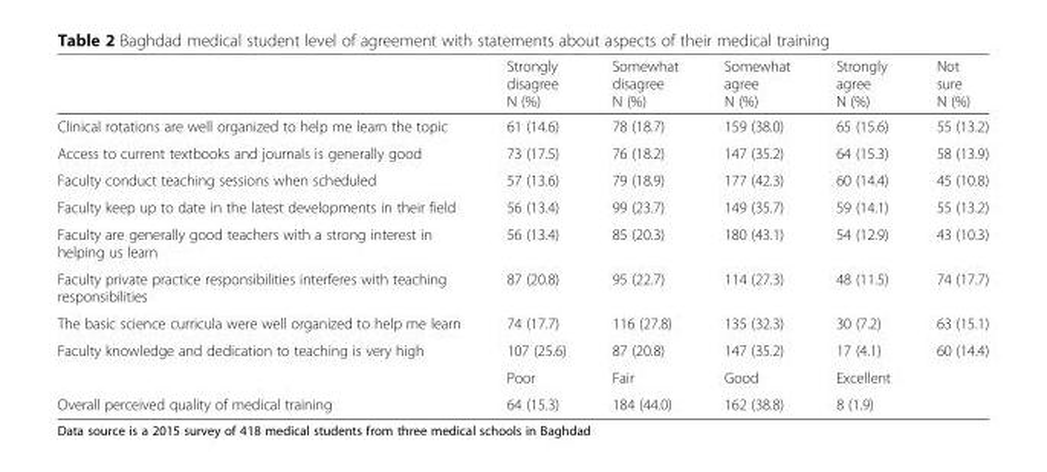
<table><thead><tr><td></td><td>Strongly disagree N (%)</td><td>Somewhat disagree N (%)</td><td>Somewhat agree N (%)</td><td>Strongly agree N (%)</td><td>Not sure N (%)</td></tr></thead><tbody><tr><td>Clinical rotations are well organized to help me learn the topic</td><td>61 (14.6)</td><td>78 (18.7)</td><td>159 (38.0)</td><td>65 (15.6)</td><td>55 (13.2)</td></tr><tr><td>Access to current textbooks and journals is generally good</td><td>73 (17.5)</td><td>76 (18.2)</td><td>147 (35.2)</td><td>64 (15.3)</td><td>58 (13.9)</td></tr><tr><td>Faculty conduct teaching sessions when scheduled</td><td>57 (13.6)</td><td>79 (18.9)</td><td>177 (42.3)</td><td>60 (14.4)</td><td>45 (10.8)</td></tr><tr><td>Faculty keep up to date in the latest developments in their field</td><td>56 (13.4)</td><td>99 (23.7)</td><td>149 (35.7)</td><td>59 (14.1)</td><td>55 (13.2)</td></tr><tr><td>Faculty are generally good teachers with a strong interest in helping us learn</td><td>56 (13.4)</td><td>85 (20.3)</td><td>180 (43.1)</td><td>54 (12.9)</td><td>43 (10.3)</td></tr><tr><td>Faculty private practice responsibilities interferes with teaching responsibilities</td><td>87 (20.8)</td><td>95 (22.7)</td><td>114 (27.3)</td><td>48 (11.5)</td><td>74 (17.7)</td></tr><tr><td>The basic science curricula were well organized to help me learn</td><td>74 (17.7)</td><td>116 (27.8)</td><td>135 (32.3)</td><td>30 (7.2)</td><td>63 (15.1)</td></tr><tr><td rowspan="2">Faculty knowledge and dedication to teaching is very high</td><td>107 (25.6)</td><td>87 (20.8)</td><td>147 (35.2)</td><td>17 (4.1)</td><td>60 (14.4)</td></tr><tr><td>Poor</td><td>Fair</td><td>Good</td><td>Excellent</td><td></td></tr><tr><td>Overall perceived quality of medical training</td><td>64 (15.3)</td><td>184 (44.0)</td><td>162 (38.8)</td><td>8 (1.9)</td><td></td></tr></tbody></table>